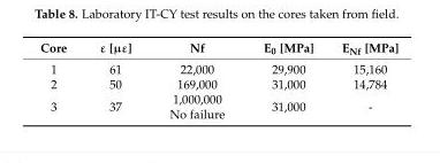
<table><thead><tr><td>Core</td><td>ε [µε]</td><td>Nf</td><td>E<sub>0</sub> [MPa]</td><td>E<sub>Nf</sub> [MPa]</td></tr></thead><tbody><tr><td>1</td><td>61</td><td>22,000</td><td>29,900</td><td>15,160</td></tr><tr><td>2</td><td>50</td><td>169,000</td><td>31,000</td><td>14,784</td></tr><tr><td>3</td><td>37</td><td>1,000,000 No failure</td><td>31,000</td><td>-</td></tr></tbody></table>